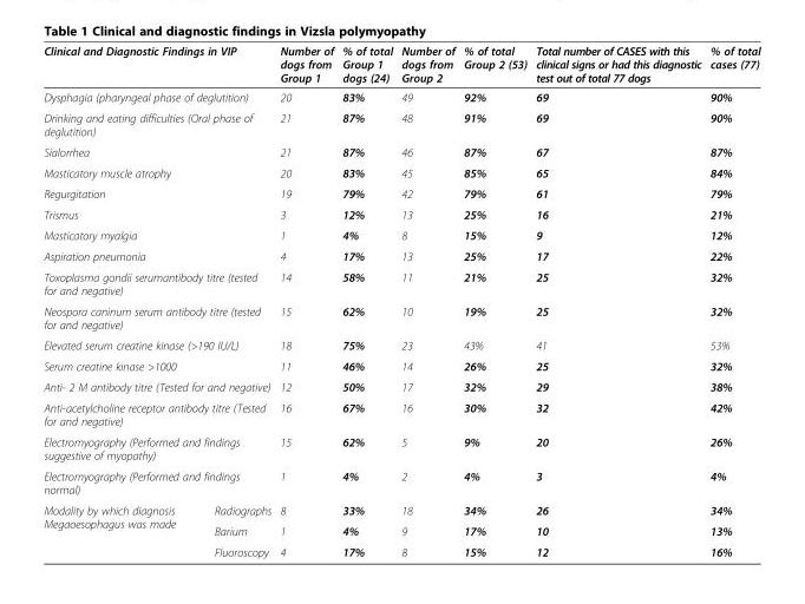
<table><thead><tr><td colspan="2">Clinical and Diagnostic Findings in VIP</td><td>Number of dogs from Group 1</td><td>% of total Group 1 dogs (24)</td><td>Number of dogs from Group 2</td><td>% of total Group 2 (53)</td><td>Total number of CASES with this clinical signs or had this diagnostic test out of total 77 dogs</td><td>% of total cases (77)</td></tr></thead><tbody><tr><td colspan="2">Dysphagia (pharyngeal phase of deglutition)</td><td>20</td><td>83%</td><td>49</td><td>92%</td><td>69</td><td>90%</td></tr><tr><td colspan="2">Drinking and eating difficulties (Oral phase of deglutition)</td><td>21</td><td>87%</td><td>48</td><td>91%</td><td>69</td><td>90%</td></tr><tr><td colspan="2">Sialorrhea</td><td>21</td><td>87%</td><td>46</td><td>87%</td><td>67</td><td>87%</td></tr><tr><td colspan="2">Masticatory muscle atrophy</td><td>20</td><td>83%</td><td>45</td><td>85%</td><td>65</td><td>84%</td></tr><tr><td colspan="2">Regurgitation</td><td>19</td><td>79%</td><td>42</td><td>79%</td><td>61</td><td>79%</td></tr><tr><td colspan="2">Trismus</td><td>3</td><td>12%</td><td>13</td><td>25%</td><td>16</td><td>21%</td></tr><tr><td colspan="2">Masticatory myalgia</td><td>1</td><td>4%</td><td>8</td><td>15%</td><td>9</td><td>12%</td></tr><tr><td colspan="2">Aspiration pneumonia</td><td>4</td><td>17%</td><td>13</td><td>25%</td><td>17</td><td>22%</td></tr><tr><td colspan="2">Toxoplasma gondii serumantibody titre (tested for and negative)</td><td>14</td><td>58%</td><td>11</td><td>21%</td><td>25</td><td>32%</td></tr><tr><td colspan="2">Neospora caninum serum antibody titre (tested for and negative)</td><td>15</td><td>62%</td><td>10</td><td>19%</td><td>25</td><td>32%</td></tr><tr><td colspan="2">Elevated serum creatine kinase (&gt;190 IU/L)</td><td>18</td><td>75%</td><td>23</td><td>43%</td><td>41</td><td>53%</td></tr><tr><td colspan="2">Serum creatine kinase &gt;1000</td><td>11</td><td>46%</td><td>14</td><td>26%</td><td>25</td><td>32%</td></tr><tr><td colspan="2">Anti- 2 M antibody titre (Tested for and negative)</td><td>12</td><td>50%</td><td>17</td><td>32%</td><td>29</td><td>38%</td></tr><tr><td colspan="2">Anti-acetylcholine receptor antibody titre (Tested for and negative)</td><td>16</td><td>67%</td><td>16</td><td>30%</td><td>32</td><td>42%</td></tr><tr><td colspan="2">Electromyography (Performed and findings suggestive of myopathy)</td><td>15</td><td>62%</td><td>5</td><td>9%</td><td>20</td><td>26%</td></tr><tr><td colspan="2">Electromyography (Performed and findings normal)</td><td>1</td><td>4%</td><td>2</td><td>4%</td><td>3</td><td>4%</td></tr><tr><td rowspan="3">Modality by which diagnosis Megaoesophagus was made</td><td>Radiographs</td><td>8</td><td>33%</td><td>18</td><td>34%</td><td>26</td><td>34%</td></tr><tr><td>Barium</td><td>1</td><td>4%</td><td>9</td><td>17%</td><td>10</td><td>13%</td></tr><tr><td>Fluoroscopy</td><td>4</td><td>17%</td><td>8</td><td>15%</td><td>12</td><td>16%</td></tr></tbody></table>